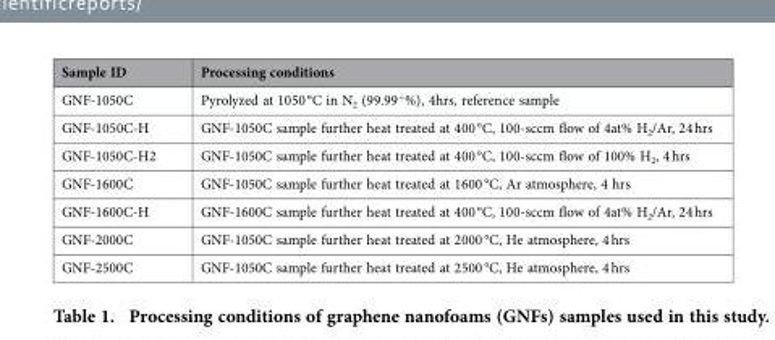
<table><thead><tr><td>Sample ID</td><td>Processing conditions</td></tr></thead><tbody><tr><td>GNF-1050C</td><td>Pyrolyzed at 1050 °C in N<sub>2</sub> (99.99<sup>+</sup>%), 4hrs, reference sample</td></tr><tr><td>GNF-1050C-H</td><td>GNF-1050C sample further heat treated at 400 °C, 100-sccm flow of 4at% H<sub>2</sub>/Ar, 24 hrs</td></tr><tr><td>GNF-1050C-H2</td><td>GNF-1050C sample further heat treated at 400 °C, 100-sccm flow of 100% H<sub>2</sub>, 4 hrs</td></tr><tr><td>GNF-1600C</td><td>GNF-1050C sample further heat treated at 1600 °C, Ar atmosphere, 4 hrs</td></tr><tr><td>GNF-1600C-H</td><td>GNF-1600C sample further heat treated at 400 °C, 100-sccm flow of 4at% H<sub>2</sub>/Ar, 24 hrs</td></tr><tr><td>GNF-2000C</td><td>GNF-1050C sample further heat treated at 2000 °C, He atmosphere, 4 hrs</td></tr><tr><td>GNF-2500C</td><td>GNF-1050C sample further heat treated at 2500 °C, He atmosphere, 4 hrs</td></tr></tbody></table>